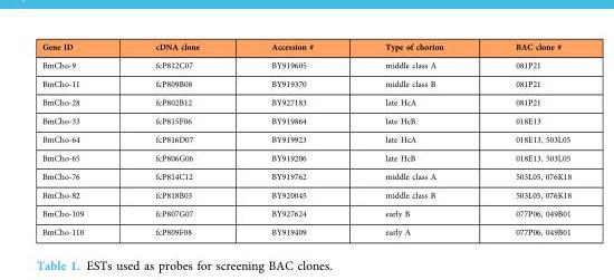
<table><thead><tr><td>Gene ID</td><td>cDNA clone</td><td>Accession #</td><td>Type of chorion</td><td>BAC clone #</td></tr></thead><tbody><tr><td>BmCho-9</td><td>fcP812C07</td><td>BY919605</td><td>middle class A</td><td>081P21</td></tr><tr><td>BmCho-11</td><td>fcP809B08</td><td>BY919370</td><td>middle class B</td><td>081P21</td></tr><tr><td>BmCho-28</td><td>fcP802B12</td><td>BY927183</td><td>late HcA</td><td>081P21</td></tr><tr><td>BmCho-33</td><td>fcP815F06</td><td>BY919864</td><td>late HcB</td><td>018E13</td></tr><tr><td>BmCho-64</td><td>fcP816D07</td><td>BY919923</td><td>late HcA</td><td>018E13, 503L05</td></tr><tr><td>BmCho-65</td><td>fcP806G06</td><td>BY919206</td><td>late HcB</td><td>018E13, 503L05</td></tr><tr><td>BmCho-76</td><td>fcP814C12</td><td>BY919762</td><td>middle class A</td><td>503L05, 076K18</td></tr><tr><td>BmCho-82</td><td>fcP818B03</td><td>BY920045</td><td>middle class B</td><td>503L05, 076K18</td></tr><tr><td>BmCho-109</td><td>fcP807G07</td><td>BY927624</td><td>early B</td><td>077P06, 049B01</td></tr><tr><td>BmCho-110</td><td>fcP809F08</td><td>BY919409</td><td>early A</td><td>077P06, 049B01</td></tr></tbody></table>